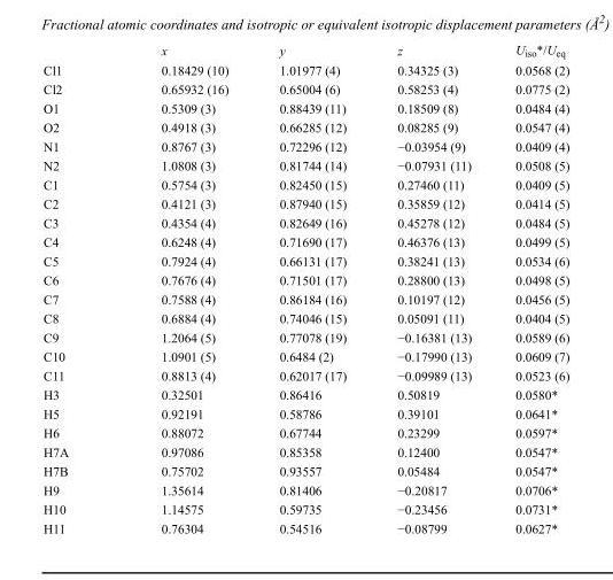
<table><thead><tr><td></td><td>x</td><td>y</td><td>z</td><td>U<sub>iso</sub>*/U<sub>eq</sub></td></tr></thead><tbody><tr><td>Cl1</td><td>0.18429 (10)</td><td>1.01977 (4)</td><td>0.34325 (3)</td><td>0.0568 (2)</td></tr><tr><td>Cl2</td><td>0.65932 (16)</td><td>0.65004 (6)</td><td>0.58253 (4)</td><td>0.0775 (2)</td></tr><tr><td>O1</td><td>0.5309 (3)</td><td>0.88439 (11)</td><td>0.18509 (8)</td><td>0.0484 (4)</td></tr><tr><td>O2</td><td>0.4918 (3)</td><td>0.66285 (12)</td><td>0.08285 (9)</td><td>0.0547 (4)</td></tr><tr><td>N1</td><td>0.8767 (3)</td><td>0.72296 (12)</td><td>−0.03954 (9)</td><td>0.0409 (4)</td></tr><tr><td>N2</td><td>1.0808 (3)</td><td>0.81744 (14)</td><td>−0.07931 (11)</td><td>0.0508 (5)</td></tr><tr><td>C1</td><td>0.5754 (3)</td><td>0.82450 (15)</td><td>0.27460 (11)</td><td>0.0409 (5)</td></tr><tr><td>C2</td><td>0.4121 (3)</td><td>0.87940 (15)</td><td>0.35859 (12)</td><td>0.0414 (5)</td></tr><tr><td>C3</td><td>0.4354 (4)</td><td>0.82649 (16)</td><td>0.45278 (12)</td><td>0.0484 (5)</td></tr><tr><td>C4</td><td>0.6248 (4)</td><td>0.71690 (17)</td><td>0.46376 (13)</td><td>0.0499 (5)</td></tr><tr><td>C5</td><td>0.7924 (4)</td><td>0.66131 (17)</td><td>0.38241 (13)</td><td>0.0534 (6)</td></tr><tr><td>C6</td><td>0.7676 (4)</td><td>0.71501 (17)</td><td>0.28800 (13)</td><td>0.0498 (5)</td></tr><tr><td>C7</td><td>0.7588 (4)</td><td>0.86184 (16)</td><td>0.10197 (12)</td><td>0.0456 (5)</td></tr><tr><td>C8</td><td>0.6884 (4)</td><td>0.74046 (15)</td><td>0.05091 (11)</td><td>0.0404 (5)</td></tr><tr><td>C9</td><td>1.2064 (5)</td><td>0.77078 (19)</td><td>−0.16381 (13)</td><td>0.0589 (6)</td></tr><tr><td>C10</td><td>1.0901 (5)</td><td>0.6484 (2)</td><td>−0.17990 (13)</td><td>0.0609 (7)</td></tr><tr><td>C11</td><td>0.8813 (4)</td><td>0.62017 (17)</td><td>−0.09989 (13)</td><td>0.0523 (6)</td></tr><tr><td>H3</td><td>0.32501</td><td>0.86416</td><td>0.50819</td><td>0.0580*</td></tr><tr><td>H5</td><td>0.92191</td><td>0.58786</td><td>0.39101</td><td>0.0641*</td></tr><tr><td>H6</td><td>0.88072</td><td>0.67744</td><td>0.23299</td><td>0.0597*</td></tr><tr><td>H7A</td><td>0.97086</td><td>0.85358</td><td>0.12400</td><td>0.0547*</td></tr><tr><td>H7B</td><td>0.75702</td><td>0.93557</td><td>0.05484</td><td>0.0547*</td></tr><tr><td>H9</td><td>1.35614</td><td>0.81406</td><td>−0.20817</td><td>0.0706*</td></tr><tr><td>H10</td><td>1.14575</td><td>0.59735</td><td>−0.23456</td><td>0.0731*</td></tr><tr><td>H11</td><td>0.76304</td><td>0.54516</td><td>−0.08799</td><td>0.0627*</td></tr></tbody></table>